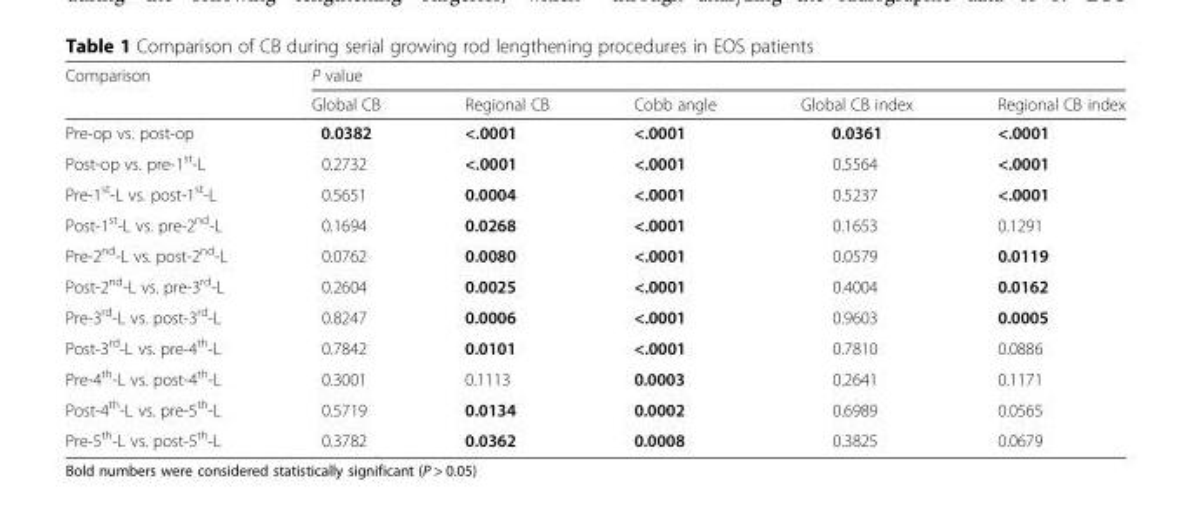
<table><thead><tr><td rowspan="2">Comparison</td><td colspan="5">P value</td></tr><tr><td>Global CB</td><td>Regional CB</td><td>Cobb angle</td><td>Global CB index</td><td>Regional CB index</td></tr></thead><tbody><tr><td>Pre-op vs. post-op</td><td>0.0382</td><td>&lt;.0001</td><td>&lt;.0001</td><td>0.0361</td><td>&lt;.0001</td></tr><tr><td>Post-op vs. pre-1<sup>st</sup>-L</td><td>0.2732</td><td>&lt;.0001</td><td>&lt;.0001</td><td>0.5564</td><td>&lt;.0001</td></tr><tr><td>Pre-1<sup>st</sup>-L vs. post-1<sup>st</sup>-L</td><td>0.5651</td><td>0.0004</td><td>&lt;.0001</td><td>0.5237</td><td>&lt;.0001</td></tr><tr><td>Post-1<sup>st</sup>-L vs. pre-2<sup>nd</sup>-L</td><td>0.1694</td><td>0.0268</td><td>&lt;.0001</td><td>0.1653</td><td>0.1291</td></tr><tr><td>Pre-2<sup>nd</sup>-L vs. post-2<sup>nd</sup>-L</td><td>0.0762</td><td>0.0080</td><td>&lt;.0001</td><td>0.0579</td><td>0.0119</td></tr><tr><td>Post-2<sup>nd</sup>-L vs. pre-3<sup>rd</sup>-L</td><td>0.2604</td><td>0.0025</td><td>&lt;.0001</td><td>0.4004</td><td>0.0162</td></tr><tr><td>Pre-3<sup>rd</sup>-L vs. post-3<sup>rd</sup>-L</td><td>0.8247</td><td>0.0006</td><td>&lt;.0001</td><td>0.9603</td><td>0.0005</td></tr><tr><td>Post-3<sup>rd</sup>-L vs. pre-4<sup>th</sup>-L</td><td>0.7842</td><td>0.0101</td><td>&lt;.0001</td><td>0.7810</td><td>0.0886</td></tr><tr><td>Pre-4<sup>th</sup>-L vs. post-4<sup>th</sup>-L</td><td>0.3001</td><td>0.1113</td><td>0.0003</td><td>0.2641</td><td>0.1171</td></tr><tr><td>Post-4<sup>th</sup>-L vs. pre-5<sup>th</sup>-L</td><td>0.5719</td><td>0.0134</td><td>0.0002</td><td>0.6989</td><td>0.0565</td></tr><tr><td>Pre-5<sup>th</sup>-L vs. post-5<sup>th</sup>-L</td><td>0.3782</td><td>0.0362</td><td>0.0008</td><td>0.3825</td><td>0.0679</td></tr></tbody></table>